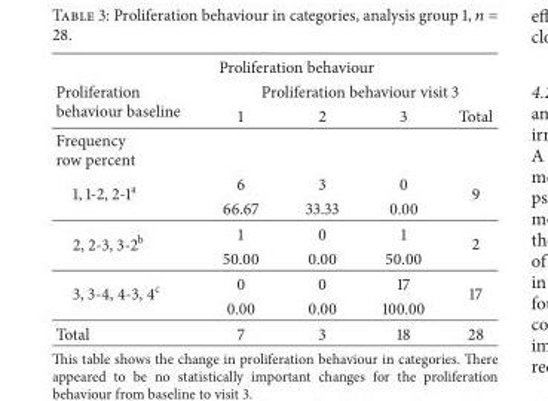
<table><thead><tr><td colspan="5">Proliferation behaviour</td></tr><tr><td rowspan="2">Proliferation behaviour baseline</td><td colspan="4">Proliferation behaviour visit 3</td></tr><tr><td>1</td><td>2</td><td>3</td><td>Total</td></tr></thead><tbody><tr><td colspan="5">Frequency row percent</td></tr><tr><td rowspan="2">1, 1-2, 2-1<sup>a</sup></td><td>6</td><td>3</td><td>0</td><td rowspan="2">9</td></tr><tr><td>66.67</td><td>33.33</td><td>0.00</td></tr><tr><td rowspan="2">2, 2-3, 3-2<sup>b</sup></td><td>1</td><td>0</td><td>1</td><td rowspan="2">2</td></tr><tr><td>50.00</td><td>0.00</td><td>50.00</td></tr><tr><td rowspan="2">3, 3-4, 4-3, 4<sup>c</sup></td><td>0</td><td>0</td><td>17</td><td rowspan="2">17</td></tr><tr><td>0.00</td><td>0.00</td><td>100.00</td></tr><tr><td>Total</td><td>7</td><td>3</td><td>18</td><td>28</td></tr></tbody></table>